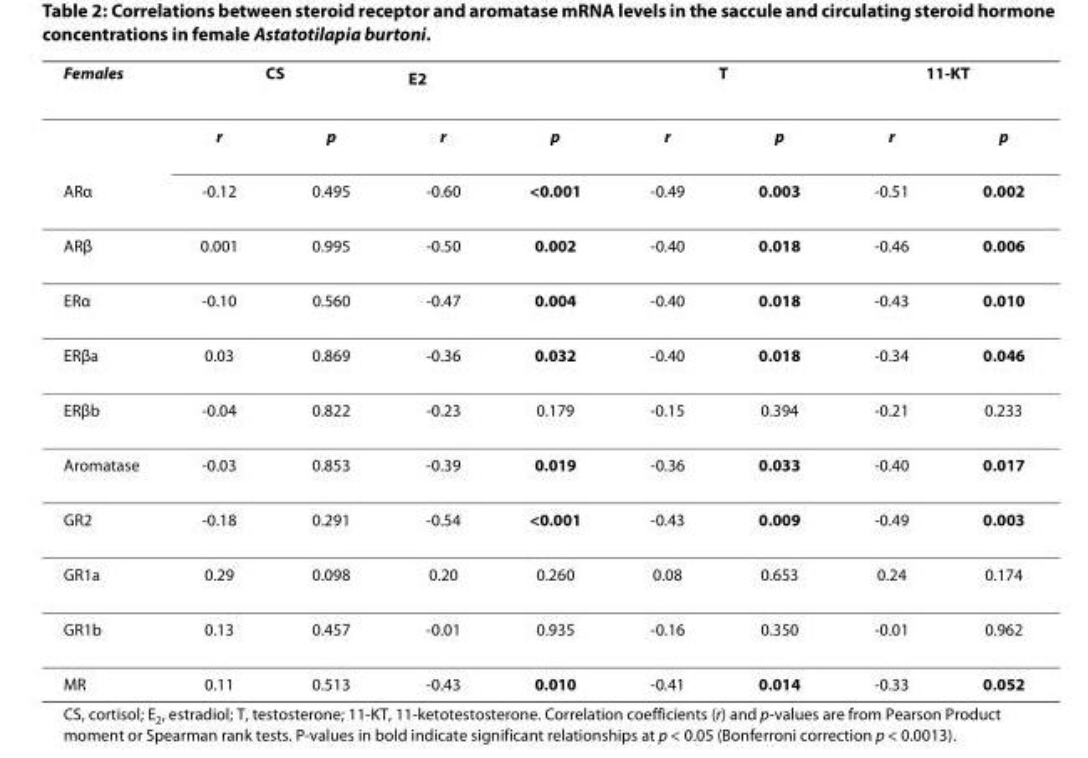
<table><thead><tr><td rowspan="2">Females</td><td colspan="2">CS</td><td colspan="2">E<sub>2</sub></td><td colspan="2">T</td><td colspan="2">11-KT</td></tr><tr><td>r</td><td>p</td><td>r</td><td>p</td><td>r</td><td>p</td><td>r</td><td>p</td></tr></thead><tbody><tr><td>ARα</td><td>-0.12</td><td>0.495</td><td>-0.60</td><td>&lt;0.001</td><td>-0.49</td><td>0.003</td><td>-0.51</td><td>0.002</td></tr><tr><td>ARβ</td><td>0.001</td><td>0.995</td><td>-0.50</td><td>0.002</td><td>-0.40</td><td>0.018</td><td>-0.46</td><td>0.006</td></tr><tr><td>ERα</td><td>-0.10</td><td>0.560</td><td>-0.47</td><td>0.004</td><td>-0.40</td><td>0.018</td><td>-0.43</td><td>0.010</td></tr><tr><td>ERβa</td><td>0.03</td><td>0.869</td><td>-0.36</td><td>0.032</td><td>-0.40</td><td>0.018</td><td>-0.34</td><td>0.046</td></tr><tr><td>ERβb</td><td>-0.04</td><td>0.822</td><td>-0.23</td><td>0.179</td><td>-0.15</td><td>0.394</td><td>-0.21</td><td>0.233</td></tr><tr><td>Aromatase</td><td>-0.03</td><td>0.853</td><td>-0.39</td><td>0.019</td><td>-0.36</td><td>0.033</td><td>-0.40</td><td>0.017</td></tr><tr><td>GR2</td><td>-0.18</td><td>0.291</td><td>-0.54</td><td>&lt;0.001</td><td>-0.43</td><td>0.009</td><td>-0.49</td><td>0.003</td></tr><tr><td>GR1a</td><td>0.29</td><td>0.098</td><td>0.20</td><td>0.260</td><td>0.08</td><td>0.653</td><td>0.24</td><td>0.174</td></tr><tr><td>GR1b</td><td>0.13</td><td>0.457</td><td>-0.01</td><td>0.935</td><td>-0.16</td><td>0.350</td><td>-0.01</td><td>0.962</td></tr><tr><td>MR</td><td>0.11</td><td>0.513</td><td>-0.43</td><td>0.010</td><td>-0.41</td><td>0.014</td><td>-0.33</td><td>0.052</td></tr></tbody></table>